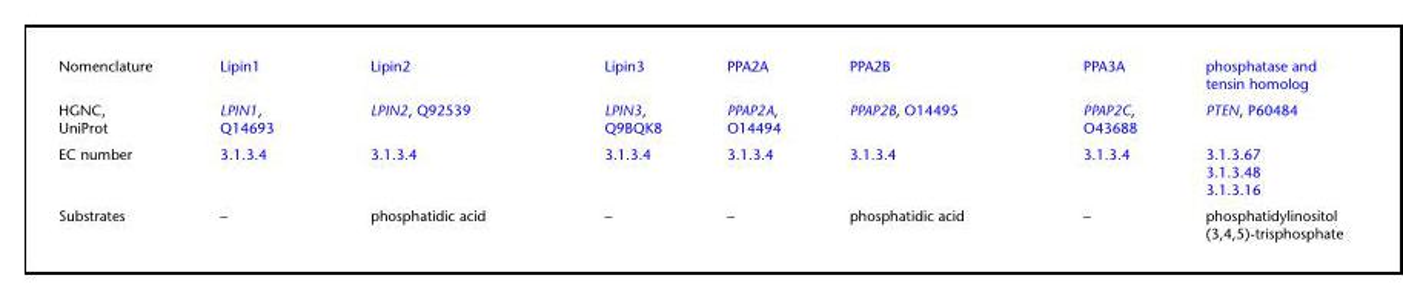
<table><tbody><tr><td rowspan="2">Nomenclature</td><td>Lipin1</td><td>Lipin2</td><td>Lipin3</td><td>PPA2A</td><td>PPA2B</td><td>PPA3A</td><td>phosphatase and</td></tr><tr><td></td><td></td><td></td><td></td><td></td><td></td><td>tensin homolog</td></tr><tr><td>HGNC, UniProt</td><td>LPIN1, Q14693</td><td>LPIN2, Q92539</td><td>LPIN3, Q9BQK8</td><td>PPAP2A, O14494</td><td>PPAP2B, O14495</td><td>PPAP2C, O43688</td><td>PTEN, P60484</td></tr><tr><td rowspan="3">EC number</td><td>3.1.3.4</td><td>3.1.3.4</td><td>3.1.3.4</td><td>3.1.3.4</td><td>3.1.3.4</td><td>3.1.3.4</td><td>3.1.3.67</td></tr><tr><td></td><td></td><td></td><td></td><td></td><td></td><td>3.1.3.48</td></tr><tr><td></td><td></td><td></td><td></td><td></td><td></td><td>3.1.3.16</td></tr><tr><td>Substrates</td><td>–</td><td>phosphatidic acid</td><td>–</td><td>–</td><td>phosphatidic acid</td><td>–</td><td>phosphatidylinositol (3,4,5)-trisphosphate</td></tr></tbody></table>